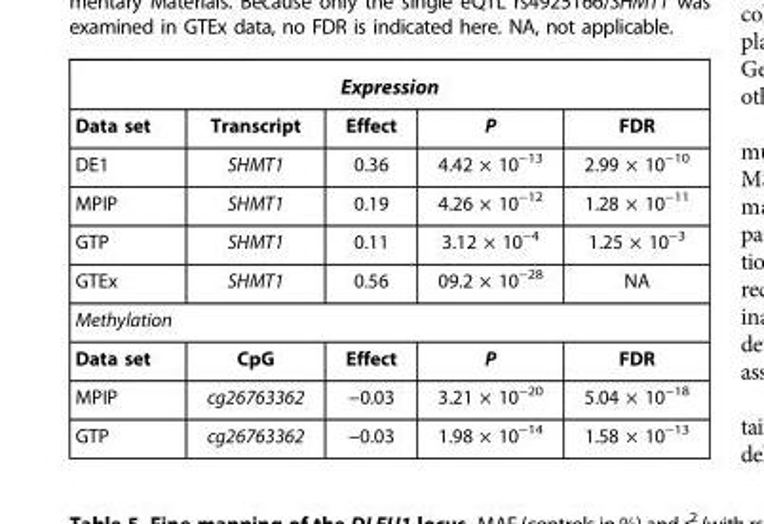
<table><thead><tr><td colspan="5">Expression</td></tr><tr><td>Data set</td><td>Transcript</td><td>Effect</td><td>P</td><td>FDR</td></tr></thead><tbody><tr><td>DE1</td><td>SHMT1</td><td>0.36</td><td>4.42 × 10<sup>−13</sup></td><td>2.99 × 10<sup>−10</sup></td></tr><tr><td>MPIP</td><td>SHMT1</td><td>0.19</td><td>4.26 × 10<sup>−12</sup></td><td>1.28 × 10<sup>−11</sup></td></tr><tr><td>GTP</td><td>SHMT1</td><td>0.11</td><td>3.12 × 10<sup>−4</sup></td><td>1.25 × 10<sup>−3</sup></td></tr><tr><td>GTEx</td><td>SHMT1</td><td>0.56</td><td>09.2 × 10<sup>−28</sup></td><td>NA</td></tr><tr><td colspan="5">Methylation</td></tr><tr><td>Data set</td><td>CpG</td><td>Effect</td><td>P</td><td>FDR</td></tr><tr><td>MPIP</td><td>cg26763362</td><td>−0.03</td><td>3.21 × 10<sup>−20</sup></td><td>5.04 × 10<sup>−18</sup></td></tr><tr><td>GTP</td><td>cg26763362</td><td>−0.03</td><td>1.98 × 10<sup>−14</sup></td><td>1.58 × 10<sup>−13</sup></td></tr></tbody></table>